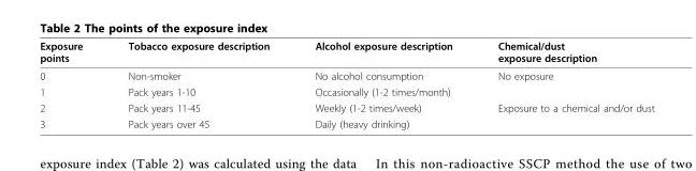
<table><thead><tr><td>Exposure points</td><td>Tobacco exposure description</td><td>Alcohol exposure description</td><td>Chemical/dust exposure description</td></tr></thead><tbody><tr><td>0</td><td>Non-smoker</td><td>No alcohol consumption</td><td>No exposure</td></tr><tr><td>1</td><td>Pack years 1-10</td><td>Occasionally (1-2 times/month)</td><td></td></tr><tr><td>2</td><td>Pack years 11-45</td><td>Weekly (1-2 times/week)</td><td>Exposure to a chemical and/or dust</td></tr><tr><td>3</td><td>Pack years over 45</td><td>Daily (heavy drinking)</td><td></td></tr></tbody></table>